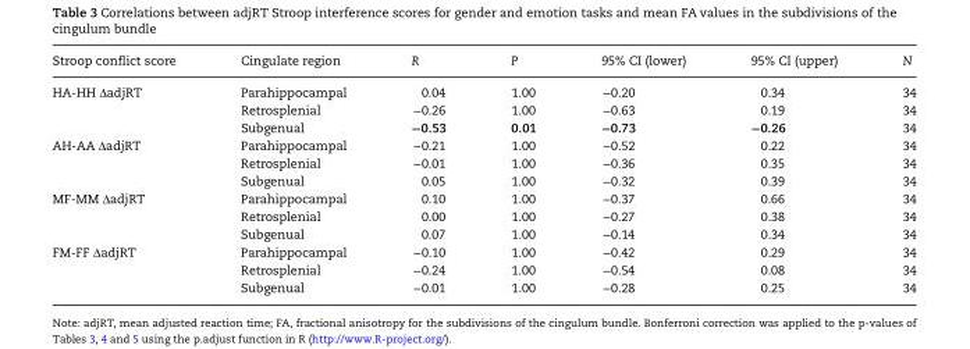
<table><thead><tr><td>Stroop conflict score</td><td>Cingulate region</td><td>R</td><td>P</td><td>95% CI (lower)</td><td>95% CI (upper)</td><td>N</td></tr></thead><tbody><tr><td rowspan="3">HA-HH ΔadjRT</td><td>Parahippocampal</td><td>0.04</td><td>1.00</td><td>−0.20</td><td>0.34</td><td>34</td></tr><tr><td>Retrosplenial</td><td>−0.26</td><td>1.00</td><td>−0.63</td><td>0.19</td><td>34</td></tr><tr><td>Subgenual</td><td>−0.53</td><td>0.01</td><td>−0.73</td><td>−0.26</td><td>34</td></tr><tr><td rowspan="3">AH-AA ΔadjRT</td><td>Parahippocampal</td><td>−0.21</td><td>1.00</td><td>−0.52</td><td>0.22</td><td>34</td></tr><tr><td>Retrosplenial</td><td>−0.01</td><td>1.00</td><td>−0.36</td><td>0.35</td><td>34</td></tr><tr><td>Subgenual</td><td>0.05</td><td>1.00</td><td>−0.32</td><td>0.39</td><td>34</td></tr><tr><td rowspan="3">MF-MM ΔadjRT</td><td>Parahippocampal</td><td>0.10</td><td>1.00</td><td>−0.37</td><td>0.66</td><td>34</td></tr><tr><td>Retrosplenial</td><td>0.00</td><td>1.00</td><td>−0.27</td><td>0.38</td><td>34</td></tr><tr><td>Subgenual</td><td>0.07</td><td>1.00</td><td>−0.14</td><td>0.34</td><td>34</td></tr><tr><td rowspan="3">FM-FF ΔadjRT</td><td>Parahippocampal</td><td>−0.10</td><td>1.00</td><td>−0.42</td><td>0.29</td><td>34</td></tr><tr><td>Retrosplenial</td><td>−0.24</td><td>1.00</td><td>−0.54</td><td>0.08</td><td>34</td></tr><tr><td>Subgenual</td><td>−0.01</td><td>1.00</td><td>−0.28</td><td>0.25</td><td>34</td></tr></tbody></table>